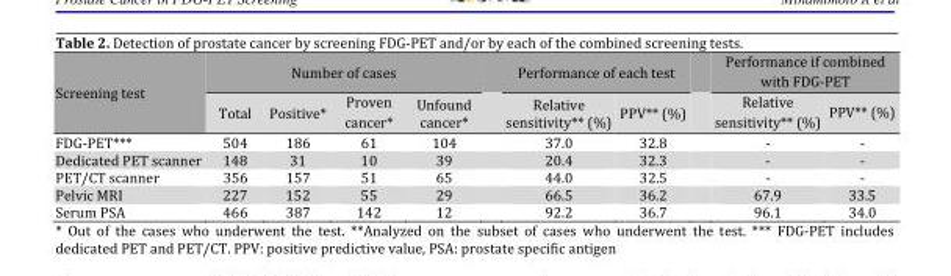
<table><thead><tr><td rowspan="2">Screening test</td><td colspan="4">Number of cases</td><td colspan="2">Performance of each test</td><td colspan="2">Performance if combined with FDG-PET</td></tr><tr><td>Total</td><td>Positive*</td><td>Proven cancer*</td><td>Unfound cancer*</td><td>Relative sensitivity** (%)</td><td>PPV** (%)</td><td>Relative sensitivity** (%)</td><td>PPV** (%)</td></tr></thead><tbody><tr><td>FDG-PET***</td><td>504</td><td>186</td><td>61</td><td>104</td><td>37.0</td><td>32.8</td><td>-</td><td>-</td></tr><tr><td>Dedicated PET scanner</td><td>148</td><td>31</td><td>10</td><td>39</td><td>20.4</td><td>32.3</td><td>-</td><td>-</td></tr><tr><td>PET/CT scanner</td><td>356</td><td>157</td><td>51</td><td>65</td><td>44.0</td><td>32.5</td><td>-</td><td>-</td></tr><tr><td>Pelvic MRI</td><td>227</td><td>152</td><td>55</td><td>29</td><td>66.5</td><td>36.2</td><td>67.9</td><td>33.5</td></tr><tr><td>Serum PSA</td><td>466</td><td>387</td><td>142</td><td>12</td><td>92.2</td><td>36.7</td><td>96.1</td><td>34.0</td></tr></tbody></table>